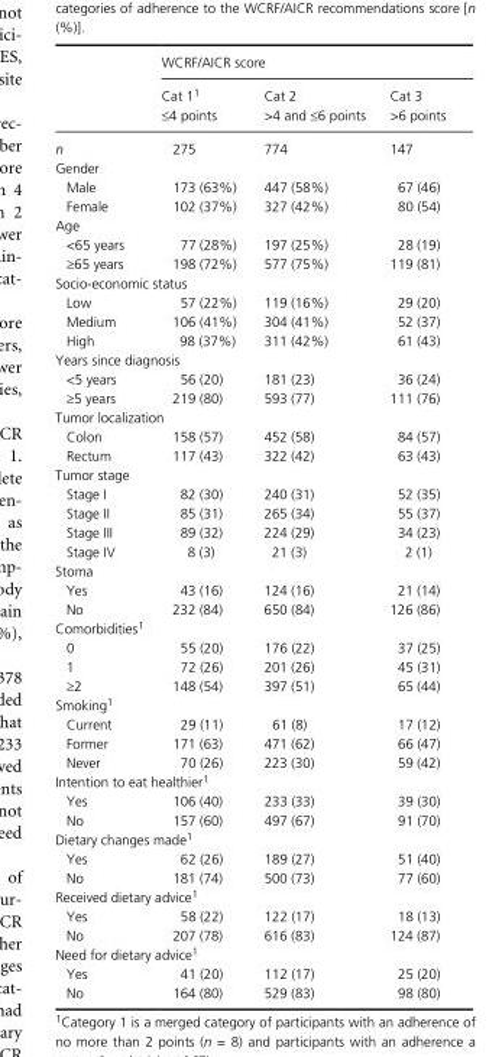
<table><thead><tr><td rowspan="2"></td><td colspan="3">WCRF/AICR score</td></tr><tr><td>Cat 11 ≤4 points</td><td>Cat 2 &gt;4 and ≤6 points</td><td>Cat 3 &gt;6 points</td></tr></thead><tbody><tr><td>n</td><td>275</td><td>774</td><td>147</td></tr><tr><td colspan="4">Gender</td></tr><tr><td>Male</td><td>173 (63%)</td><td>447 (58%)</td><td>67 (46)</td></tr><tr><td>Female</td><td>102 (37%)</td><td>327 (42%)</td><td>80 (54)</td></tr><tr><td colspan="4">Age</td></tr><tr><td>&lt;65 years</td><td>77 (28%)</td><td>197 (25%)</td><td>28 (19)</td></tr><tr><td>≥65 years</td><td>198 (72%)</td><td>577 (75%)</td><td>119 (81)</td></tr><tr><td colspan="4">Socio- economic status</td></tr><tr><td>Low</td><td>57 (22%)</td><td>119 (16%)</td><td>29 (20)</td></tr><tr><td>Medium</td><td>106 (41%)</td><td>304 (41%)</td><td>52 (37)</td></tr><tr><td>High</td><td>98 (37%)</td><td>311 (42%)</td><td>61 (43)</td></tr><tr><td colspan="4">Years since diagnosis</td></tr><tr><td>&lt;5 years</td><td>56 (20)</td><td>181 (23)</td><td>36 (24)</td></tr><tr><td>≥5 years</td><td>219 (80)</td><td>593 (77)</td><td>111 (76)</td></tr><tr><td colspan="4">Tumor localization</td></tr><tr><td>Colon</td><td>158 (57)</td><td>452 (58)</td><td>84 (57)</td></tr><tr><td>Rectum</td><td>117 (43)</td><td>322 (42)</td><td>63 (43)</td></tr><tr><td colspan="4">Tumor stage</td></tr><tr><td>Stage I</td><td>82 (30)</td><td>240 (31)</td><td>52 (35)</td></tr><tr><td>Stage II</td><td>85 (31)</td><td>265 (34)</td><td>55 (37)</td></tr><tr><td>Stage III</td><td>89 (32)</td><td>224 (29)</td><td>34 (23)</td></tr><tr><td>Stage IV</td><td>8 (3)</td><td>21 (3)</td><td>2 (1)</td></tr><tr><td colspan="4">Stoma</td></tr><tr><td>Yes</td><td>43 (16)</td><td>124 (16)</td><td>21 (14)</td></tr><tr><td>No</td><td>232 (84)</td><td>650 (84)</td><td>126 (86)</td></tr><tr><td colspan="4">Comorbidities1</td></tr><tr><td>0</td><td>55 (20)</td><td>176 (22)</td><td>37 (25)</td></tr><tr><td>1</td><td>72 (26)</td><td>201 (26)</td><td>45 (31)</td></tr><tr><td>≥2</td><td>148 (54)</td><td>397 (51)</td><td>65 (44)</td></tr><tr><td colspan="4">Smoking1</td></tr><tr><td>Current</td><td>29 (11)</td><td>61 (8)</td><td>17 (12)</td></tr><tr><td>Former</td><td>171 (63)</td><td>471 (62)</td><td>66 (47)</td></tr><tr><td>Never</td><td>70 (26)</td><td>223 (30)</td><td>59 (42)</td></tr><tr><td colspan="4">Intention to eat healthier1</td></tr><tr><td>Yes</td><td>106 (40)</td><td>233 (33)</td><td>39 (30)</td></tr><tr><td>No</td><td>157 (60)</td><td>497 (67)</td><td>91 (70)</td></tr><tr><td colspan="4">Dietary changes made1</td></tr><tr><td>Yes</td><td>62 (26)</td><td>189 (27)</td><td>51 (40)</td></tr><tr><td>No</td><td>181 (74)</td><td>500 (73)</td><td>77 (60)</td></tr><tr><td colspan="4">Received dietary advice1</td></tr><tr><td>Yes</td><td>58 (22)</td><td>122 (17)</td><td>18 (13)</td></tr><tr><td>No</td><td>207 (78)</td><td>616 (83)</td><td>124 (87)</td></tr><tr><td colspan="4">Need for dietary advice1</td></tr><tr><td>Yes</td><td>41 (20)</td><td>112 (17)</td><td>25 (20)</td></tr><tr><td>No</td><td>164 (80)</td><td>529 (83)</td><td>98 (80)</td></tr></tbody></table>